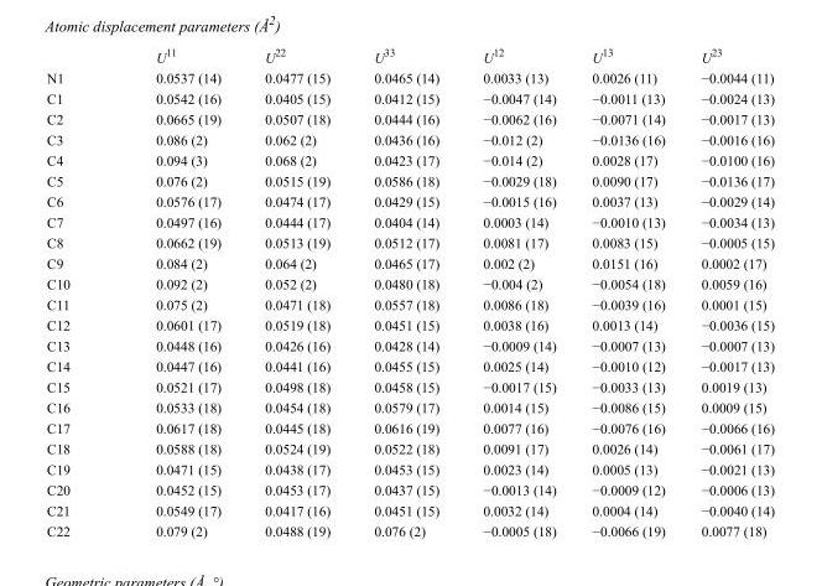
<table><thead><tr><td></td><td>U<sup>11</sup></td><td>U<sup>22</sup></td><td>U<sup>33</sup></td><td>U<sup>12</sup></td><td>U<sup>13</sup></td><td>U<sup>23</sup></td></tr></thead><tbody><tr><td>N1</td><td>0.0537 (14)</td><td>0.0477 (15)</td><td>0.0465 (14)</td><td>0.0033 (13)</td><td>0.0026 (11)</td><td>−0.0044 (11)</td></tr><tr><td>C1</td><td>0.0542 (16)</td><td>0.0405 (15)</td><td>0.0412 (15)</td><td>−0.0047 (14)</td><td>−0.0011 (13)</td><td>−0.0024 (13)</td></tr><tr><td>C2</td><td>0.0665 (19)</td><td>0.0507 (18)</td><td>0.0444 (16)</td><td>−0.0062 (16)</td><td>−0.0071 (14)</td><td>−0.0017 (13)</td></tr><tr><td>C3</td><td>0.086 (2)</td><td>0.062 (2)</td><td>0.0436 (16)</td><td>−0.012 (2)</td><td>−0.0136 (16)</td><td>−0.0016 (16)</td></tr><tr><td>C4</td><td>0.094 (3)</td><td>0.068 (2)</td><td>0.0423 (17)</td><td>−0.014 (2)</td><td>0.0028 (17)</td><td>−0.0100 (16)</td></tr><tr><td>C5</td><td>0.076 (2)</td><td>0.0515 (19)</td><td>0.0586 (18)</td><td>−0.0029 (18)</td><td>0.0090 (17)</td><td>−0.0136 (17)</td></tr><tr><td>C6</td><td>0.0576 (17)</td><td>0.0474 (17)</td><td>0.0429 (15)</td><td>−0.0015 (16)</td><td>0.0037 (13)</td><td>−0.0029 (14)</td></tr><tr><td>C7</td><td>0.0497 (16)</td><td>0.0444 (17)</td><td>0.0404 (14)</td><td>0.0003 (14)</td><td>−0.0010 (13)</td><td>−0.0034 (13)</td></tr><tr><td>C8</td><td>0.0662 (19)</td><td>0.0513 (19)</td><td>0.0512 (17)</td><td>0.0081 (17)</td><td>0.0083 (15)</td><td>−0.0005 (15)</td></tr><tr><td>C9</td><td>0.084 (2)</td><td>0.064 (2)</td><td>0.0465 (17)</td><td>0.002 (2)</td><td>0.0151 (16)</td><td>0.0002 (17)</td></tr><tr><td>C10</td><td>0.092 (2)</td><td>0.052 (2)</td><td>0.0480 (18)</td><td>−0.004 (2)</td><td>−0.0054 (18)</td><td>0.0059 (16)</td></tr><tr><td>C11</td><td>0.075 (2)</td><td>0.0471 (18)</td><td>0.0557 (18)</td><td>0.0086 (18)</td><td>−0.0039 (16)</td><td>0.0001 (15)</td></tr><tr><td>C12</td><td>0.0601 (17)</td><td>0.0519 (18)</td><td>0.0451 (15)</td><td>0.0038 (16)</td><td>0.0013 (14)</td><td>−0.0036 (15)</td></tr><tr><td>C13</td><td>0.0448 (16)</td><td>0.0426 (16)</td><td>0.0428 (14)</td><td>−0.0009 (14)</td><td>−0.0007 (13)</td><td>−0.0007 (13)</td></tr><tr><td>C14</td><td>0.0447 (16)</td><td>0.0441 (16)</td><td>0.0455 (15)</td><td>0.0025 (14)</td><td>−0.0010 (12)</td><td>−0.0017 (13)</td></tr><tr><td>C15</td><td>0.0521 (17)</td><td>0.0498 (18)</td><td>0.0458 (15)</td><td>−0.0017 (15)</td><td>−0.0033 (13)</td><td>0.0019 (13)</td></tr><tr><td>C16</td><td>0.0533 (18)</td><td>0.0454 (18)</td><td>0.0579 (17)</td><td>0.0014 (15)</td><td>−0.0086 (15)</td><td>0.0009 (15)</td></tr><tr><td>C17</td><td>0.0617 (18)</td><td>0.0445 (18)</td><td>0.0616 (19)</td><td>0.0077 (16)</td><td>−0.0076 (16)</td><td>−0.0066 (16)</td></tr><tr><td>C18</td><td>0.0588 (18)</td><td>0.0524 (19)</td><td>0.0522 (18)</td><td>0.0091 (17)</td><td>0.0026 (14)</td><td>−0.0061 (17)</td></tr><tr><td>C19</td><td>0.0471 (15)</td><td>0.0438 (17)</td><td>0.0453 (15)</td><td>0.0023 (14)</td><td>0.0005 (13)</td><td>−0.0021 (13)</td></tr><tr><td>C20</td><td>0.0452 (15)</td><td>0.0453 (17)</td><td>0.0437 (15)</td><td>−0.0013 (14)</td><td>−0.0009 (12)</td><td>−0.0006 (13)</td></tr><tr><td>C21</td><td>0.0549 (17)</td><td>0.0417 (16)</td><td>0.0451 (15)</td><td>0.0032 (14)</td><td>0.0004 (14)</td><td>−0.0040 (14)</td></tr><tr><td>C22</td><td>0.079 (2)</td><td>0.0488 (19)</td><td>0.076 (2)</td><td>−0.0005 (18)</td><td>−0.0066 (19)</td><td>0.0077 (18)</td></tr></tbody></table>